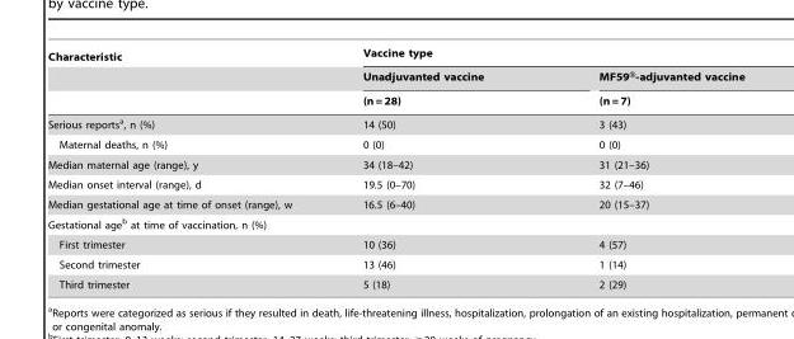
<table><thead><tr><td rowspan="3">Characteristic</td><td colspan="2">Vaccine type</td></tr><tr><td rowspan="2">Unadjuvanted vaccine (n = 28)</td><td rowspan="2">MF59®-adjuvanted vaccine (n = 7)</td></tr><tr></tr></thead><tbody><tr><td>Serious reports<sup>a</sup>, n (%)</td><td>14 (50)</td><td>3 (43)</td></tr><tr><td>Maternal deaths, n (%)</td><td>0 (0)</td><td>0 (0)</td></tr><tr><td>Median maternal age (range), y</td><td>34 (18–42)</td><td>31 (21–36)</td></tr><tr><td>Median onset interval (range), d</td><td>19.5 (0–70)</td><td>32 (7–46)</td></tr><tr><td>Median gestational age at time of onset (range), w</td><td>16.5 (6–40)</td><td>20 (15–37)</td></tr><tr><td colspan="3">Gestational age<sup>b</sup> at time of vaccination, n (%)</td></tr><tr><td>First trimester</td><td>10 (36)</td><td>4 (57)</td></tr><tr><td>Second trimester</td><td>13 (46)</td><td>1 (14)</td></tr><tr><td>Third trimester</td><td>5 (18)</td><td>2 (29)</td></tr></tbody></table>